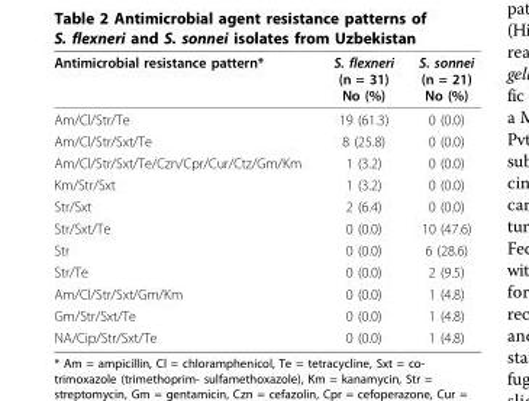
<table><thead><tr><td>Antimicrobial resistance pattern*</td><td>S. flexneri (n = 31) No (%)</td><td>S. sonnei (n = 21) No (%)</td></tr></thead><tbody><tr><td>Am/Cl/Str/Te</td><td>19 (61.3)</td><td>0 (0.0)</td></tr><tr><td>Am/Cl/Str/Sxt/Te</td><td>8 (25.8)</td><td>0 (0.0)</td></tr><tr><td>Am/Cl/Str/Sxt/Te/Czn/Cpr/Cur/Ctz/Gm/Km</td><td>1 (3.2)</td><td>0 (0.0)</td></tr><tr><td>Km/Str/Sxt</td><td>1 (3.2)</td><td>0 (0.0)</td></tr><tr><td>Str/Sxt</td><td>2 (6.4)</td><td>0 (0.0)</td></tr><tr><td>Str/Sxt/Te</td><td>0 (0.0)</td><td>10 (47.6)</td></tr><tr><td>Str</td><td>0 (0.0)</td><td>6 (28.6)</td></tr><tr><td>Str/Te</td><td>0 (0.0)</td><td>2 (9.5)</td></tr><tr><td>Am/Cl/Str/Sxt/Gm/Km</td><td>0 (0.0)</td><td>1 (4.8)</td></tr><tr><td>Gm/Str/Sxt/Te</td><td>0 (0.0)</td><td>1 (4.8)</td></tr><tr><td>NA/Cip/Str/Sxt/Te</td><td>0 (0.0)</td><td>1 (4.8)</td></tr></tbody></table>